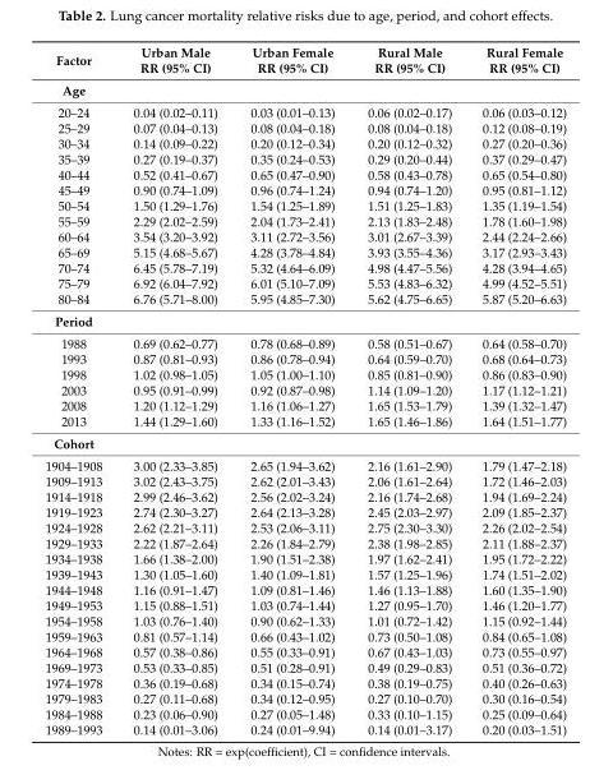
<table><thead><tr><td>Factor</td><td>Urban Male RR (95% CI)</td><td>Urban Female RR (95% CI)</td><td>Rural Male RR (95% CI)</td><td>Rural Female RR (95% CI)</td></tr></thead><tbody><tr><td colspan="5">Age</td></tr><tr><td>20–24</td><td>0.04 (0.02–0.11)</td><td>0.03 (0.01–0.13)</td><td>0.06 (0.02–0.17)</td><td>0.06 (0.03–0.12)</td></tr><tr><td>25–29</td><td>0.07 (0.04–0.13)</td><td>0.08 (0.04–0.18)</td><td>0.08 (0.04–0.18)</td><td>0.12 (0.08–0.19)</td></tr><tr><td>30–34</td><td>0.14 (0.09–0.22)</td><td>0.20 (0.12–0.34)</td><td>0.20 (0.12–0.32)</td><td>0.27 (0.20–0.36)</td></tr><tr><td>35–39</td><td>0.27 (0.19–0.37)</td><td>0.35 (0.24–0.53)</td><td>0.29 (0.20–0.44)</td><td>0.37 (0.29–0.47)</td></tr><tr><td>40–44</td><td>0.52 (0.41–0.67)</td><td>0.65 (0.47–0.90)</td><td>0.58 (0.43–0.78)</td><td>0.65 (0.54–0.80)</td></tr><tr><td>45–49</td><td>0.90 (0.74–1.09)</td><td>0.96 (0.74–1.24)</td><td>0.94 (0.74–1.20)</td><td>0.95 (0.81–1.12)</td></tr><tr><td>50–54</td><td>1.50 (1.29–1.76)</td><td>1.54 (1.25–1.89)</td><td>1.51 (1.25–1.83)</td><td>1.35 (1.19–1.54)</td></tr><tr><td>55–59</td><td>2.29 (2.02–2.59)</td><td>2.04 (1.73–2.41)</td><td>2.13 (1.83–2.48)</td><td>1.78 (1.60–1.98)</td></tr><tr><td>60–64</td><td>3.54 (3.20–3.92)</td><td>3.11 (2.72–3.56)</td><td>3.01 (2.67–3.39)</td><td>2.44 (2.24–2.66)</td></tr><tr><td>65–69</td><td>5.15 (4.68–5.67)</td><td>4.28 (3.78–4.84)</td><td>3.93 (3.55–4.36)</td><td>3.17 (2.93–3.43)</td></tr><tr><td>70–74</td><td>6.45 (5.78–7.19)</td><td>5.32 (4.64–6.09)</td><td>4.98 (4.47–5.56)</td><td>4.28 (3.94–4.65)</td></tr><tr><td>75–79</td><td>6.92 (6.04–7.92)</td><td>6.01 (5.10–7.09)</td><td>5.53 (4.83–6.32)</td><td>4.99 (4.52–5.51)</td></tr><tr><td>80–84</td><td>6.76 (5.71–8.00)</td><td>5.95 (4.85–7.30)</td><td>5.62 (4.75–6.65)</td><td>5.87 (5.20–6.63)</td></tr><tr><td colspan="5">Period</td></tr><tr><td>1988</td><td>0.69 (0.62–0.77)</td><td>0.78 (0.68–0.89)</td><td>0.58 (0.51–0.67)</td><td>0.64 (0.58–0.70)</td></tr><tr><td>1993</td><td>0.87 (0.81–0.93)</td><td>0.86 (0.78–0.94)</td><td>0.64 (0.59–0.70)</td><td>0.68 (0.64–0.73)</td></tr><tr><td>1998</td><td>1.02 (0.98–1.05)</td><td>1.05 (1.00–1.10)</td><td>0.85 (0.81–0.90)</td><td>0.86 (0.83–0.90)</td></tr><tr><td>2003</td><td>0.95 (0.91–0.99)</td><td>0.92 (0.87–0.98)</td><td>1.14 (1.09–1.20)</td><td>1.17 (1.12–1.21)</td></tr><tr><td>2008</td><td>1.20 (1.12–1.29)</td><td>1.16 (1.06–1.27)</td><td>1.65 (1.53–1.79)</td><td>1.39 (1.32–1.47)</td></tr><tr><td>2013</td><td>1.44 (1.29–1.60)</td><td>1.33 (1.16–1.52)</td><td>1.65 (1.46–1.86)</td><td>1.64 (1.51–1.77)</td></tr><tr><td colspan="5">Cohort</td></tr><tr><td>1904–1908</td><td>3.00 (2.33–3.85)</td><td>2.65 (1.94–3.62)</td><td>2.16 (1.61–2.90)</td><td>1.79 (1.47–2.18)</td></tr><tr><td>1909–1913</td><td>3.02 (2.43–3.75)</td><td>2.62 (2.01–3.43)</td><td>2.06 (1.61–2.64)</td><td>1.72 (1.46–2.03)</td></tr><tr><td>1914–1918</td><td>2.99 (2.46–3.62)</td><td>2.56 (2.02–3.24)</td><td>2.16 (1.74–2.68)</td><td>1.94 (1.69–2.24)</td></tr><tr><td>1919–1923</td><td>2.74 (2.30–3.27)</td><td>2.64 (2.13–3.28)</td><td>2.45 (2.03–2.97)</td><td>2.09 (1.85–2.37)</td></tr><tr><td>1924–1928</td><td>2.62 (2.21–3.11)</td><td>2.53 (2.06–3.11)</td><td>2.75 (2.30–3.30)</td><td>2.26 (2.02–2.54)</td></tr><tr><td>1929–1933</td><td>2.22 (1.87–2.64)</td><td>2.26 (1.84–2.79)</td><td>2.38 (1.98–2.85)</td><td>2.11 (1.88–2.37)</td></tr><tr><td>1934–1938</td><td>1.66 (1.38–2.00)</td><td>1.90 (1.51–2.38)</td><td>1.97 (1.62–2.41)</td><td>1.95 (1.72–2.22)</td></tr><tr><td>1939–1943</td><td>1.30 (1.05–1.60)</td><td>1.40 (1.09–1.81)</td><td>1.57 (1.25–1.96)</td><td>1.74 (1.51–2.02)</td></tr><tr><td>1944–1948</td><td>1.16 (0.91–1.47)</td><td>1.09 (0.81–1.46)</td><td>1.46 (1.13–1.88)</td><td>1.60 (1.35–1.90)</td></tr><tr><td>1949–1953</td><td>1.15 (0.88–1.51)</td><td>1.03 (0.74–1.44)</td><td>1.27 (0.95–1.70)</td><td>1.46 (1.20–1.77)</td></tr><tr><td>1954–1958</td><td>1.03 (0.76–1.40)</td><td>0.90 (0.62–1.33)</td><td>1.01 (0.72–1.42)</td><td>1.15 (0.92–1.44)</td></tr><tr><td>1959–1963</td><td>0.81 (0.57–1.14)</td><td>0.66 (0.43–1.02)</td><td>0.73 (0.50–1.08)</td><td>0.84 (0.65–1.08)</td></tr><tr><td>1964–1968</td><td>0.57 (0.38–0.86)</td><td>0.55 (0.33–0.91)</td><td>0.67 (0.43–1.03)</td><td>0.73 (0.55–0.97)</td></tr><tr><td>1969–1973</td><td>0.53 (0.33–0.85)</td><td>0.51 (0.28–0.91)</td><td>0.49 (0.29–0.83)</td><td>0.51 (0.36–0.72)</td></tr><tr><td>1974–1978</td><td>0.36 (0.19–0.68)</td><td>0.34 (0.15–0.74)</td><td>0.38 (0.19–0.75)</td><td>0.40 (0.26–0.63)</td></tr><tr><td>1979–1983</td><td>0.27 (0.11–0.68)</td><td>0.34 (0.12–0.95)</td><td>0.27 (0.10–0.70)</td><td>0.30 (0.16–0.54)</td></tr><tr><td>1984–1988</td><td>0.23 (0.06–0.90)</td><td>0.27 (0.05–1.48)</td><td>0.33 (0.10–1.15)</td><td>0.25 (0.09–0.64)</td></tr><tr><td>1989–1993</td><td>0.14 (0.01–3.06)</td><td>0.24 (0.01–9.94)</td><td>0.14 (0.01–3.17)</td><td>0.20 (0.03–1.51)</td></tr></tbody></table>